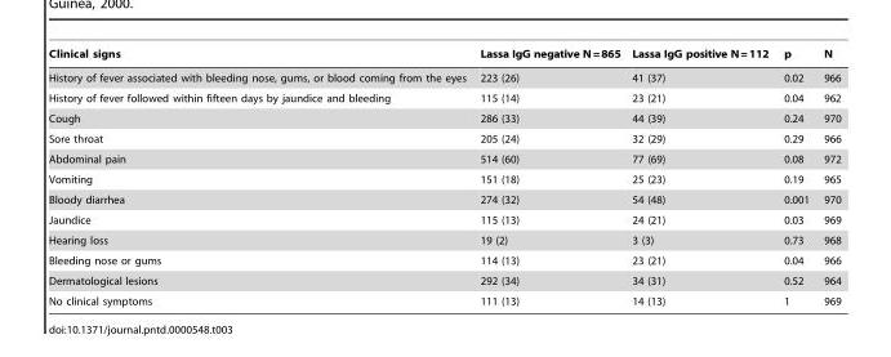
<table><thead><tr><td>Clinical signs</td><td>Lassa IgG negative N=865</td><td>Lassa IgG positive N=112</td><td>p</td><td>N</td></tr></thead><tbody><tr><td>History of fever associated with bleeding nose, gums, or blood coming from the eyes</td><td>223 (26)</td><td>41 (37)</td><td>0.02</td><td>966</td></tr><tr><td>History of fever followed within fifteen days by jaundice and bleeding</td><td>115 (14)</td><td>23 (21)</td><td>0.04</td><td>962</td></tr><tr><td>Cough</td><td>286 (33)</td><td>44 (39)</td><td>0.24</td><td>970</td></tr><tr><td>Sore throat</td><td>205 (24)</td><td>32 (29)</td><td>0.29</td><td>966</td></tr><tr><td>Abdominal pain</td><td>514 (60)</td><td>77 (69)</td><td>0.08</td><td>972</td></tr><tr><td>Vomiting</td><td>151 (18)</td><td>25 (23)</td><td>0.19</td><td>965</td></tr><tr><td>Bloody diarrhea</td><td>274 (32)</td><td>54 (48)</td><td>0.001</td><td>970</td></tr><tr><td>Jaundice</td><td>115 (13)</td><td>24 (21)</td><td>0.03</td><td>969</td></tr><tr><td>Hearing loss</td><td>19 (2)</td><td>3 (3)</td><td>0.73</td><td>968</td></tr><tr><td>Bleeding nose or gums</td><td>114 (13)</td><td>23 (21)</td><td>0.04</td><td>966</td></tr><tr><td>Dermatological lesions</td><td>292 (34)</td><td>34 (31)</td><td>0.52</td><td>964</td></tr><tr><td>No clinical symptoms</td><td>111 (13)</td><td>14 (13)</td><td>1</td><td>969</td></tr></tbody></table>